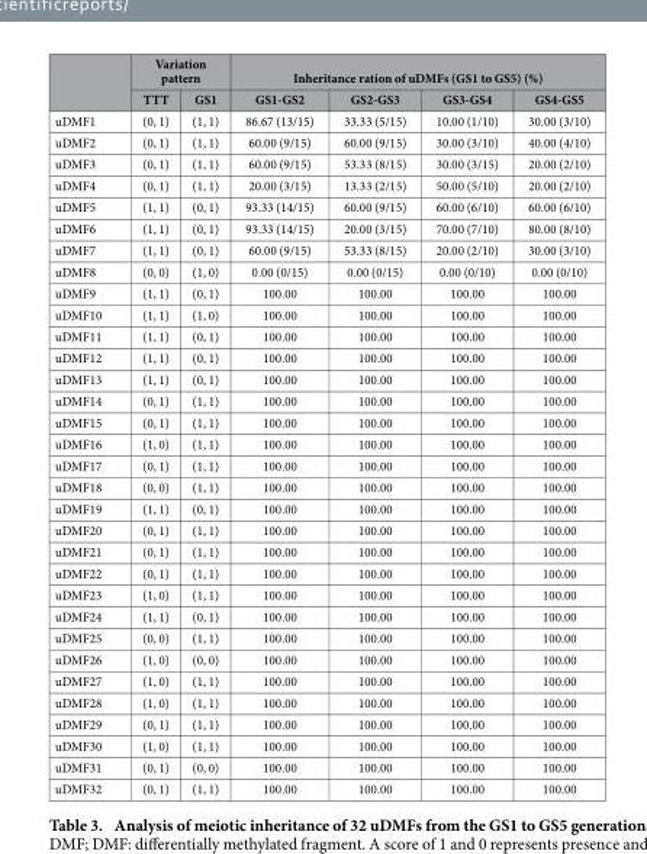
<table><thead><tr><td rowspan="2"></td><td colspan="2">Variation pattern</td><td colspan="4">Inheritance ration of uDMFs (GS1 to GS5) (%)</td></tr><tr><td>TTT</td><td>GS1</td><td>GS1-GS2</td><td>GS2-GS3</td><td>GS3-GS4</td><td>GS4-GS5</td></tr></thead><tbody><tr><td>uDMF1</td><td>(0, 1)</td><td>(1, 1)</td><td>86.67 (13/15)</td><td>33.33 (5/15)</td><td>10.00 (1/10)</td><td>30.00 (3/10)</td></tr><tr><td>uDMF2</td><td>(0, 1)</td><td>(1, 1)</td><td>60.00 (9/15)</td><td>60.00 (9/15)</td><td>30.00 (3/10)</td><td>40.00 (4/10)</td></tr><tr><td>uDMF3</td><td>(0, 1)</td><td>(1, 1)</td><td>60.00 (9/15)</td><td>53.33 (8/15)</td><td>30.00 (3/15)</td><td>20.00 (2/10)</td></tr><tr><td>uDMF4</td><td>(0, 1)</td><td>(1, 1)</td><td>20.00 (3/15)</td><td>13.33 (2/15)</td><td>50.00 (5/10)</td><td>20.00 (2/10)</td></tr><tr><td>uDMF5</td><td>(1, 1)</td><td>(0, 1)</td><td>93.33 (14/15)</td><td>60.00 (9/15)</td><td>60.00 (6/10)</td><td>60.00 (6/10)</td></tr><tr><td>uDMF6</td><td>(1, 1)</td><td>(0, 1)</td><td>93.33 (14/15)</td><td>20.00 (3/15)</td><td>70.00 (7/10)</td><td>80.00 (8/10)</td></tr><tr><td>uDMF7</td><td>(1, 1)</td><td>(0, 1)</td><td>60.00 (9/15)</td><td>53.33 (8/15)</td><td>20.00 (2/10)</td><td>30.00 (3/10)</td></tr><tr><td>uDMF8</td><td>(0, 0)</td><td>(1, 0)</td><td>0.00 (0/15)</td><td>0.00 (0/15)</td><td>0.00 (0/10)</td><td>0.00 (0/10)</td></tr><tr><td>uDMF9</td><td>(1, 1)</td><td>(0, 1)</td><td>100.00</td><td>100.00</td><td>100.00</td><td>100.00</td></tr><tr><td>uDMF10</td><td>(1, 1)</td><td>(1, 0)</td><td>100.00</td><td>100.00</td><td>100.00</td><td>100.00</td></tr><tr><td>uDMF11</td><td>(1, 1)</td><td>(0, 1)</td><td>100.00</td><td>100.00</td><td>100.00</td><td>100.00</td></tr><tr><td>uDMF12</td><td>(1, 1)</td><td>(0, 1)</td><td>100.00</td><td>100.00</td><td>100.00</td><td>100.00</td></tr><tr><td>uDMF13</td><td>(1, 1)</td><td>(0, 1)</td><td>100.00</td><td>100.00</td><td>100.00</td><td>100.00</td></tr><tr><td>uDMF14</td><td>(0, 1)</td><td>(1, 1)</td><td>100.00</td><td>100.00</td><td>100.00</td><td>100.00</td></tr><tr><td>uDMF15</td><td>(0, 1)</td><td>(1, 1)</td><td>100.00</td><td>100.00</td><td>100.00</td><td>100.00</td></tr><tr><td>uDMF16</td><td>(1, 0)</td><td>(1, 1)</td><td>100.00</td><td>100.00</td><td>100.00</td><td>100.00</td></tr><tr><td>uDMF17</td><td>(0, 1)</td><td>(1, 1)</td><td>100.00</td><td>100.00</td><td>100.00</td><td>100.00</td></tr><tr><td>uDMF18</td><td>(0, 0)</td><td>(1, 1)</td><td>100.00</td><td>100.00</td><td>100.00</td><td>100.00</td></tr><tr><td>uDMF19</td><td>(1, 1)</td><td>(0, 1)</td><td>100.00</td><td>100.00</td><td>100.00</td><td>100.00</td></tr><tr><td>uDMF20</td><td>(0, 1)</td><td>(1, 1)</td><td>100.00</td><td>100.00</td><td>100.00</td><td>100.00</td></tr><tr><td>uDMF21</td><td>(0, 1)</td><td>(1, 1)</td><td>100.00</td><td>100.00</td><td>100.00</td><td>100.00</td></tr><tr><td>uDMF22</td><td>(0, 1)</td><td>(1, 1)</td><td>100.00</td><td>100.00</td><td>100.00</td><td>100.00</td></tr><tr><td>uDMF23</td><td>(1, 0)</td><td>(1, 1)</td><td>100.00</td><td>100.00</td><td>100.00</td><td>100.00</td></tr><tr><td>uDMF24</td><td>(1, 1)</td><td>(0, 1)</td><td>100.00</td><td>100.00</td><td>100.00</td><td>100.00</td></tr><tr><td>uDMF25</td><td>(0, 0)</td><td>(1, 1)</td><td>100.00</td><td>100.00</td><td>100.00</td><td>100.00</td></tr><tr><td>uDMF26</td><td>(1, 0)</td><td>(0, 0)</td><td>100.00</td><td>100.00</td><td>100.00</td><td>100.00</td></tr><tr><td>uDMF27</td><td>(1, 0)</td><td>(1, 1)</td><td>100.00</td><td>100.00</td><td>100.00</td><td>100.00</td></tr><tr><td>uDMF28</td><td>(1, 0)</td><td>(1, 1)</td><td>100.00</td><td>100.00</td><td>100.00</td><td>100.00</td></tr><tr><td>uDMF29</td><td>(0, 1)</td><td>(1, 1)</td><td>100.00</td><td>100.00</td><td>100.00</td><td>100.00</td></tr><tr><td>uDMF30</td><td>(1, 0)</td><td>(1, 1)</td><td>100.00</td><td>100.00</td><td>100.00</td><td>100.00</td></tr><tr><td>uDMF31</td><td>(0, 1)</td><td>(0, 0)</td><td>100.00</td><td>100.00</td><td>100.00</td><td>100.00</td></tr><tr><td>uDMF32</td><td>(0, 1)</td><td>(1, 1)</td><td>100.00</td><td>100.00</td><td>100.00</td><td>100.00</td></tr></tbody></table>